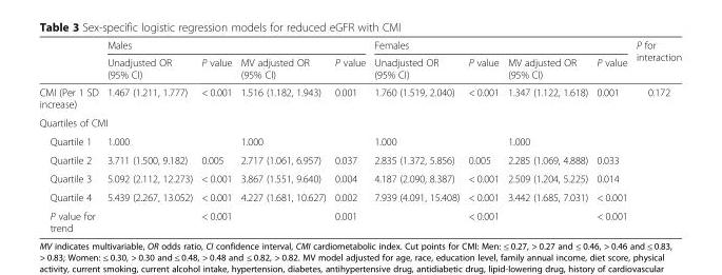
<table><thead><tr><td rowspan="2"></td><td colspan="4">Males</td><td colspan="4">Females</td><td rowspan="2">P for interaction</td></tr><tr><td>Unadjusted OR (95% CI)</td><td>P value</td><td>MV adjusted OR (95% CI)</td><td>P value</td><td>Unadjusted OR (95% CI)</td><td>P value</td><td>MV adjusted OR (95% CI)</td><td>P value</td></tr></thead><tbody><tr><td>CMI (Per 1 SD increase)</td><td>1.467 (1.211, 1.777)</td><td>&lt; 0.001</td><td>1.516 (1.182, 1.943)</td><td>0.001</td><td>1.760 (1.519, 2.040)</td><td>&lt; 0.001</td><td>1.347 (1.122, 1.618)</td><td>0.001</td><td>0.172</td></tr><tr><td colspan="10">Quartiles of CMI</td></tr><tr><td>Quartile 1</td><td>1.000</td><td></td><td>1.000</td><td></td><td>1.000</td><td></td><td>1.000</td><td></td><td></td></tr><tr><td>Quartile 2</td><td>3.711 (1.500, 9.182)</td><td>0.005</td><td>2.717 (1.061, 6.957)</td><td>0.037</td><td>2.835 (1.372, 5.856)</td><td>0.005</td><td>2.285 (1.069, 4.888)</td><td>0.033</td><td></td></tr><tr><td>Quartile 3</td><td>5.092 (2.112, 12.273)</td><td>&lt; 0.001</td><td>3.867 (1.551, 9.640)</td><td>0.004</td><td>4.187 (2.090, 8.387)</td><td>&lt; 0.001</td><td>2.509 (1.204, 5.225)</td><td>0.014</td><td></td></tr><tr><td>Quartile 4</td><td>5.439 (2.267, 13.052)</td><td>&lt; 0.001</td><td>4.227 (1.681, 10.627)</td><td>0.002</td><td>7.939 (4.091, 15.408)</td><td>&lt; 0.001</td><td>3.442 (1.685, 7.031)</td><td>&lt; 0.001</td><td></td></tr><tr><td>P value for trend</td><td></td><td>&lt; 0.001</td><td></td><td>0.001</td><td></td><td>&lt; 0.001</td><td></td><td>&lt; 0.001</td><td></td></tr></tbody></table>